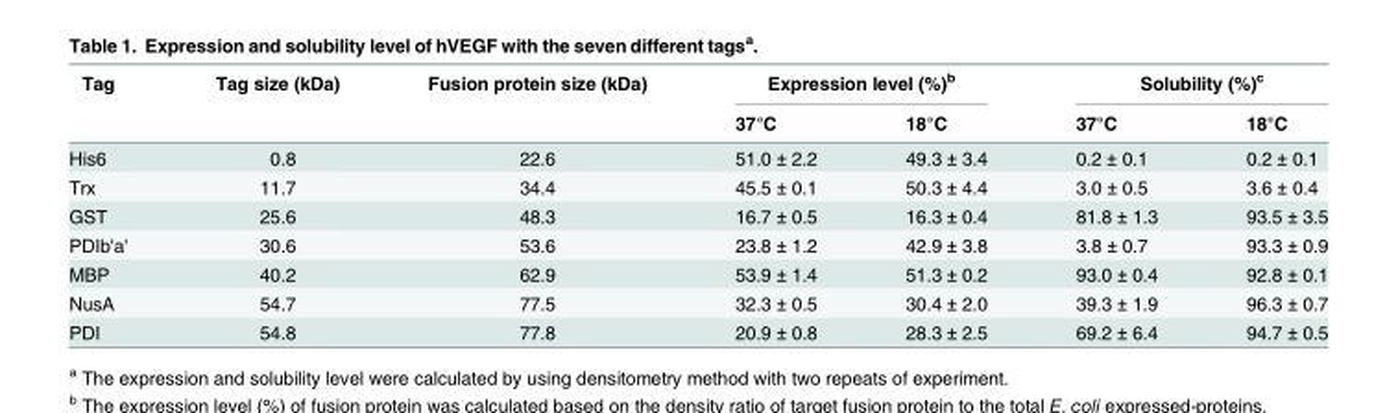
<table><thead><tr><td rowspan="2">Tag</td><td rowspan="2">Tag size (kDa)</td><td rowspan="2">Fusion protein size (kDa)</td><td colspan="2">Expression level (%)<sup>b</sup></td><td colspan="2">Solubility (%)<sup>c</sup></td></tr><tr><td>37°C</td><td>18°C</td><td>37°C</td><td>18°C</td></tr></thead><tbody><tr><td>His6</td><td>0.8</td><td>22.6</td><td>51.0 ± 2.2</td><td>49.3 ± 3.4</td><td>0.2 ± 0.1</td><td>0.2 ± 0.1</td></tr><tr><td>Trx</td><td>11.7</td><td>34.4</td><td>45.5 ± 0.1</td><td>50.3 ± 4.4</td><td>3.0 ± 0.5</td><td>3.6 ± 0.4</td></tr><tr><td>GST</td><td>25.6</td><td>48.3</td><td>16.7 ± 0.5</td><td>16.3 ± 0.4</td><td>81.8 ± 1.3</td><td>93.5 ± 3.5</td></tr><tr><td>PDIb&#x27;a&#x27;</td><td>30.6</td><td>53.6</td><td>23.8 ± 1.2</td><td>42.9 ± 3.8</td><td>3.8 ± 0.7</td><td>93.3 ± 0.9</td></tr><tr><td>MBP</td><td>40.2</td><td>62.9</td><td>53.9 ± 1.4</td><td>51.3 ± 0.2</td><td>93.0 ± 0.4</td><td>92.8 ± 0.1</td></tr><tr><td>NusA</td><td>54.7</td><td>77.5</td><td>32.3 ± 0.5</td><td>30.4 ± 2.0</td><td>39.3 ± 1.9</td><td>96.3 ± 0.7</td></tr><tr><td>PDI</td><td>54.8</td><td>77.8</td><td>20.9 ± 0.8</td><td>28.3 ± 2.5</td><td>69.2 ± 6.4</td><td>94.7 ± 0.5</td></tr></tbody></table>